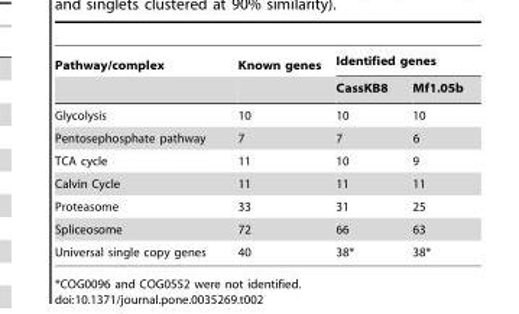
<table><thead><tr><td rowspan="2">Pathway/complex</td><td rowspan="2">Known genes</td><td colspan="2">Identified genes</td></tr><tr><td>CassKB8</td><td>Mf1.05b</td></tr></thead><tbody><tr><td>Glycolysis</td><td>10</td><td>10</td><td>10</td></tr><tr><td>Pentosephosphate pathway</td><td>7</td><td>7</td><td>6</td></tr><tr><td>TCA cycle</td><td>11</td><td>10</td><td>9</td></tr><tr><td>Calvin Cycle</td><td>11</td><td>11</td><td>11</td></tr><tr><td>Proteasome</td><td>33</td><td>31</td><td>25</td></tr><tr><td>Spliceosome</td><td>72</td><td>66</td><td>63</td></tr><tr><td>Universal single copy genes</td><td>40</td><td>38*</td><td>38*</td></tr></tbody></table>